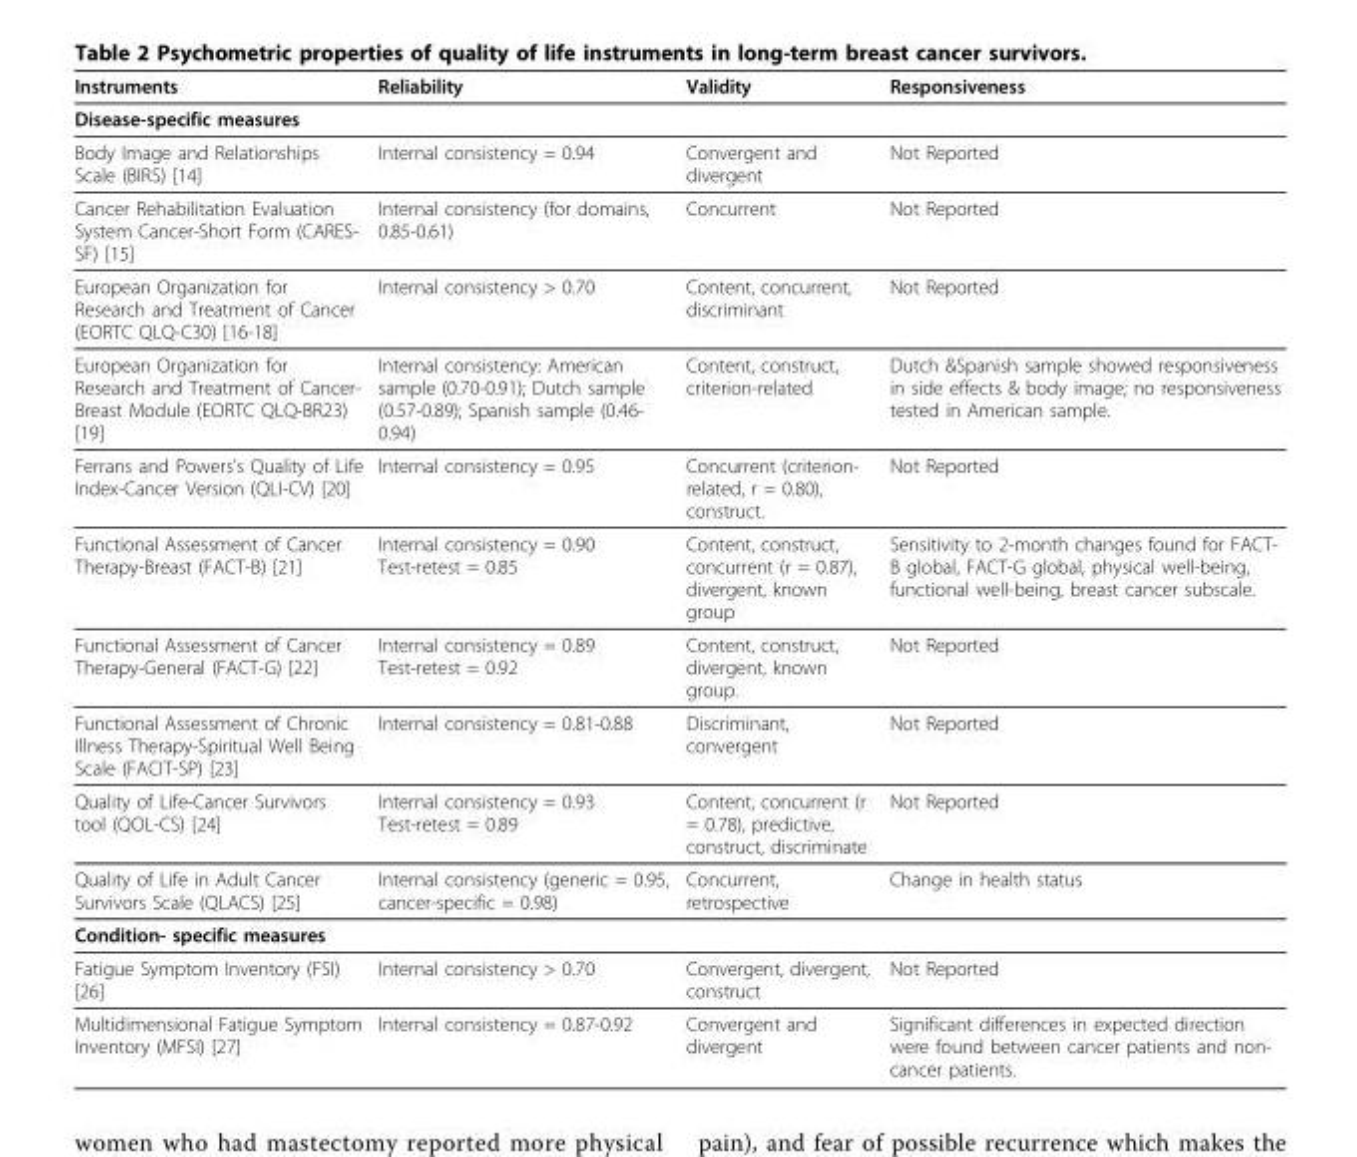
<table><thead><tr><td>Instruments</td><td>Reliability</td><td>Validity</td><td>Responsiveness</td></tr></thead><tbody><tr><td colspan="4">Disease-specific measures</td></tr><tr><td>Body Image and Relationships Scale (BIRS) [14]</td><td>Internal consistency = 0.94</td><td>Convergent and divergent</td><td>Not Reported</td></tr><tr><td>Cancer Rehabilitation Evaluation System Cancer-Short Form (CARES- SF) [15]</td><td>Internal consistency (for domains, 0.85-0.61)</td><td>Concurrent</td><td>Not Reported</td></tr><tr><td>European Organization for Research and Treatment of Cancer (EORTC QLQ-C30) [16-18]</td><td>Internal consistency &gt; 0.70</td><td>Content, concurrent, discriminant</td><td>Not Reported</td></tr><tr><td>European Organization for Research and Treatment of Cancer- Breast Module (EORTC QLQ-BR23) [19]</td><td>Internal consistency: American sample (0.70-0.91); Dutch sample (0.57-0.89); Spanish sample (0.46- 0.94)</td><td>Content, construct, criterion-related</td><td>Dutch &amp;Spanish sample showed responsiveness in side effects &amp; body image; no responsiveness tested in American sample.</td></tr><tr><td>Ferrans and Powers’s Quality of Life Index-Cancer Version (QLI-CV) [20]</td><td>Internal consistency = 0.95</td><td>Concurrent (criterion- related, r = 0.80), construct.</td><td>Not Reported</td></tr><tr><td>Functional Assessment of Cancer Therapy-Breast (FACT-B) [21]</td><td>Internal consistency = 0.90 Test-retest = 0.85</td><td>Content, construct, concurrent (r = 0.87), divergent, known group</td><td>Sensitivity to 2-month changes found for FACT- B global, FACT-G global, physical well-being, functional well-being, breast cancer subscale.</td></tr><tr><td>Functional Assessment of Cancer Therapy-General (FACT-G) [22]</td><td>Internal consistency = 0.89 Test-retest = 0.92</td><td>Content, construct, divergent, known group.</td><td>Not Reported</td></tr><tr><td>Functional Assessment of Chronic Illness Therapy-Spiritual Well Being Scale (FACIT-SP) [23]</td><td>Internal consistency = 0.81-0.88</td><td>Discriminant, convergent</td><td>Not Reported</td></tr><tr><td>Quality of Life-Cancer Survivors tool (QOL-CS) [24]</td><td>Internal consistency = 0.93 Test-retest = 0.89</td><td>Content, concurrent (r = 0.78), predictive, construct, discriminate</td><td>Not Reported</td></tr><tr><td>Quality of Life in Adult Cancer Survivors Scale (QLACS) [25]</td><td>Internal consistency (generic = 0.95, cancer-specific = 0.98)</td><td>Concurrent, retrospective</td><td>Change in health status</td></tr><tr><td colspan="4">Condition- specific measures</td></tr><tr><td>Fatigue Symptom Inventory (FSI) [26]</td><td>Internal consistency &gt; 0.70</td><td>Convergent, divergent, construct</td><td>Not Reported</td></tr><tr><td>Multidimensional Fatigue Symptom Inventory (MFSI) [27]</td><td>Internal consistency = 0.87-0.92</td><td>Convergent and divergent</td><td>Significant differences in expected direction were found between cancer patients and non- cancer patients.</td></tr></tbody></table>